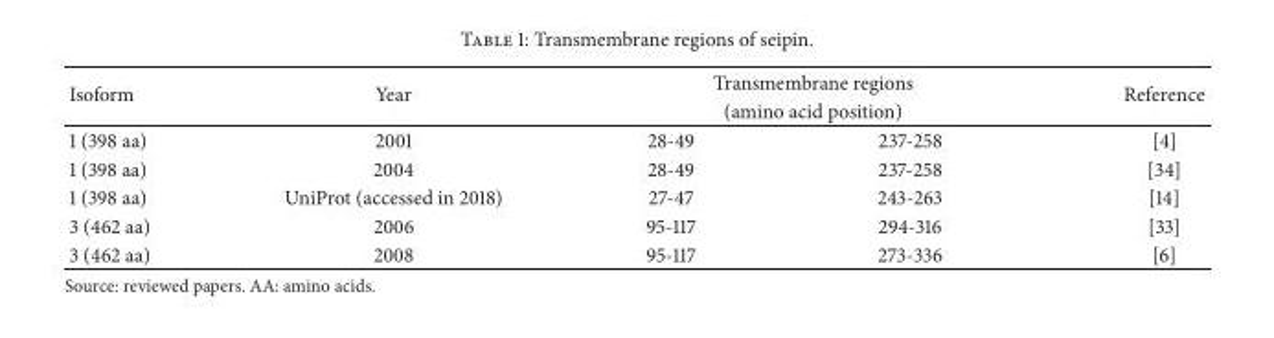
<table><thead><tr><td rowspan="3">Isoform 1 (398 aa)</td><td rowspan="3">Year 2001</td><td rowspan="2" colspan="2">Transmembrane regions (amino acid position)</td><td rowspan="3">Reference [4]</td></tr><tr></tr><tr><td>28-49</td><td>237-258</td></tr></thead><tbody><tr><td>1 (398 aa)</td><td>2004</td><td>28-49</td><td>237-258</td><td>[34]</td></tr><tr><td>1 (398 aa)</td><td>UniProt (accessed in 2018)</td><td>27-47</td><td>243-263</td><td>[14]</td></tr><tr><td>3 (462 aa)</td><td>2006</td><td>95-117</td><td>294-316</td><td>[33]</td></tr><tr><td>3 (462 aa)</td><td>2008</td><td>95-117</td><td>273-336</td><td>[6]</td></tr></tbody></table>